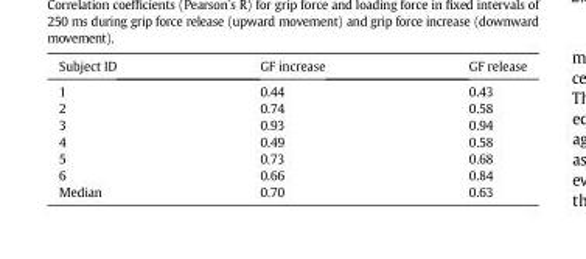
<table><thead><tr><td>Subject ID</td><td>GF increase</td><td>GF release</td></tr></thead><tbody><tr><td>1</td><td>0.44</td><td>0.43</td></tr><tr><td>2</td><td>0.74</td><td>0.58</td></tr><tr><td>3</td><td>0.93</td><td>0.94</td></tr><tr><td>4</td><td>0.49</td><td>0.58</td></tr><tr><td>5</td><td>0.73</td><td>0.68</td></tr><tr><td>6</td><td>0.66</td><td>0.84</td></tr><tr><td>Median</td><td>0.70</td><td>0.63</td></tr></tbody></table>